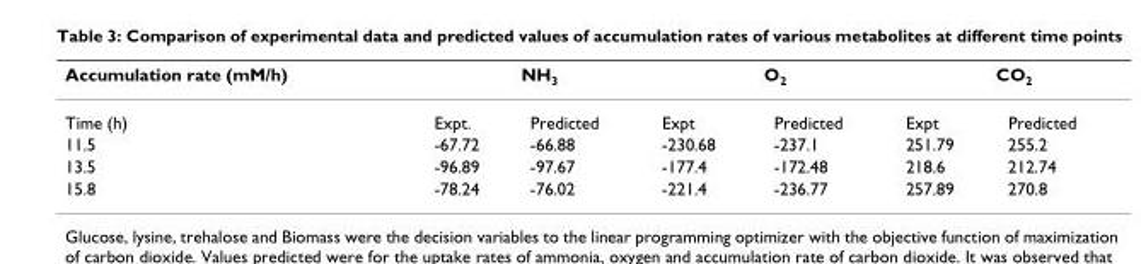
<table><thead><tr><td rowspan="2">Accumulation rate (mM/h) Time (h)</td><td colspan="2">NH<sub>3</sub></td><td colspan="2">O<sub>2</sub></td><td colspan="2">CO<sub>2</sub></td></tr><tr><td>Expt.</td><td>Predicted</td><td>Expt</td><td>Predicted</td><td>Expt</td><td>Predicted</td></tr></thead><tbody><tr><td>11.5</td><td>-67.72</td><td>-66.88</td><td>-230.68</td><td>-237.1</td><td>251.79</td><td>255.2</td></tr><tr><td>13.5</td><td>-96.89</td><td>-97.67</td><td>-177.4</td><td>-172.48</td><td>218.6</td><td>212.74</td></tr><tr><td>15.8</td><td>-78.24</td><td>-76.02</td><td>-221.4</td><td>-236.77</td><td>257.89</td><td>270.8</td></tr></tbody></table>